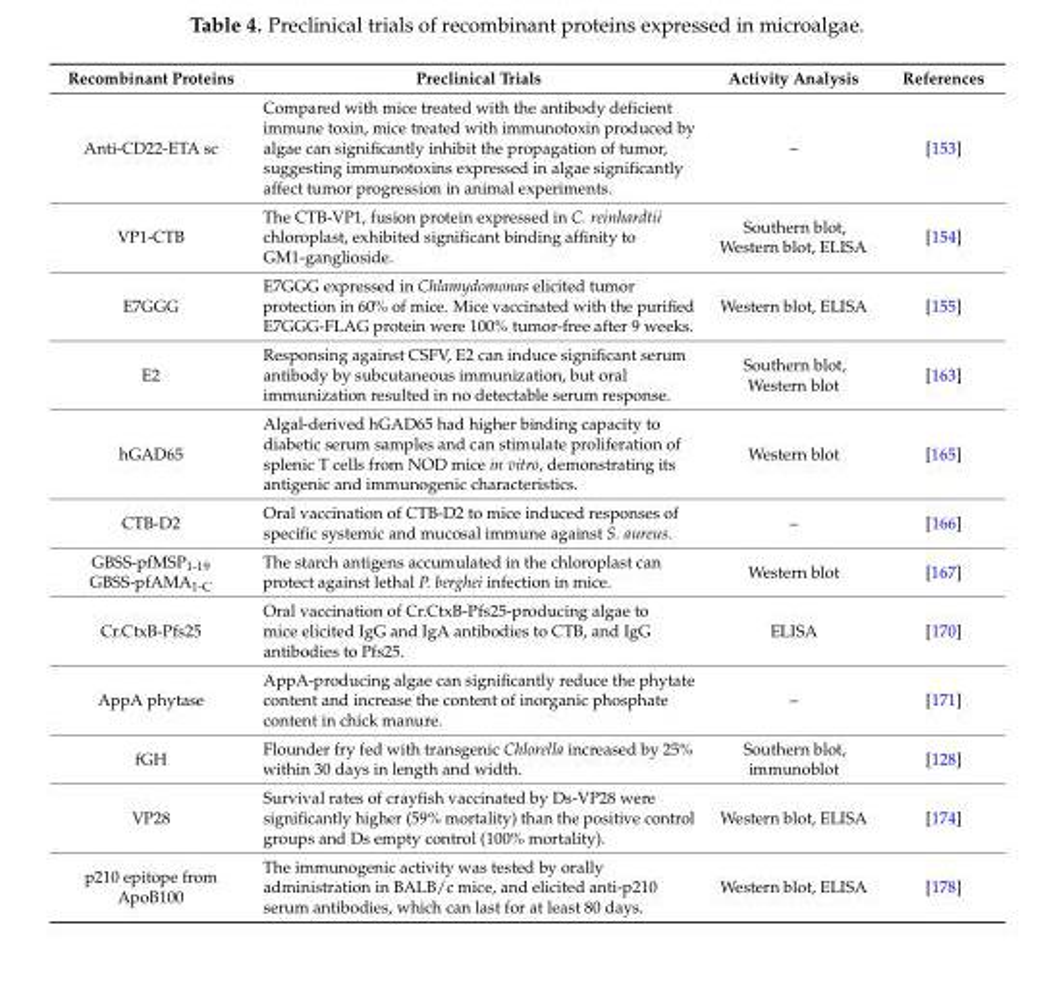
<table><thead><tr><td>Recombinant Proteins</td><td>Preclinical Trials</td><td>Activity Analysis</td><td>References</td></tr></thead><tbody><tr><td>Anti-CD22-ETA sc</td><td>Compared with mice treated with the antibody deficient immune toxin, mice treated with immunotoxin produced by algae can significantly inhibit the propagation of tumor, suggesting immunotoxins expressed in algae significantly affect tumor progression in animal experiments.</td><td>–</td><td>[153]</td></tr><tr><td>VP1-CTB</td><td>The CTB-VP1, fusion protein expressed in C. reinhardtii chloroplast, exhibited significant binding affinity to GM1-ganglioside.</td><td>Southern blot, Western blot, ELISA</td><td>[154]</td></tr><tr><td>E7GGG</td><td>E7GGG expressed in Chlamydomonas elicited tumor protection in 60% of mice. Mice vaccinated with the purified E7GGG-FLAG protein were 100% tumor-free after 9 weeks.</td><td>Western blot, ELISA</td><td>[155]</td></tr><tr><td>E2</td><td>Responsing against CSFV, E2 can induce significant serum antibody by subcutaneous immunization, but oral immunization resulted in no detectable serum response.</td><td>Southern blot, Western blot</td><td>[163]</td></tr><tr><td>hGAD65</td><td>Algal-derived hGAD65 had higher binding capacity to diabetic serum samples and can stimulate proliferation of splenic T cells from NOD mice in vitro, demonstrating its antigenic and immunogenic characteristics.</td><td>Western blot</td><td>[165]</td></tr><tr><td>CTB-D2</td><td>Oral vaccination of CTB-D2 to mice induced responses of specific systemic and mucosal immune against S. aureus.</td><td>–</td><td>[166]</td></tr><tr><td>GBSS-pfMSP<sub>1-19</sub> GBSS-pfAMA<sub>1-C</sub></td><td>The starch antigens accumulated in the chloroplast can protect against lethal P. berghei infection in mice.</td><td>Western blot</td><td>[167]</td></tr><tr><td>Cr.CtxB-Pfs25</td><td>Oral vaccination of Cr.CtxB-Pfs25-producing algae to mice elicited IgG and IgA antibodies to CTB, and IgG antibodies to Pfs25.</td><td>ELISA</td><td>[170]</td></tr><tr><td>AppA phytase</td><td>AppA-producing algae can significantly reduce the phytate content and increase the content of inorganic phosphate content in chick manure.</td><td>–</td><td>[171]</td></tr><tr><td>fGH</td><td>Flounder fry fed with transgenic Chlorella increased by 25% within 30 days in length and width.</td><td>Southern blot, immunoblot</td><td>[128]</td></tr><tr><td>VP28</td><td>Survival rates of crayfish vaccinated by Ds-VP28 were significantly higher (59% mortality) than the positive control groups and Ds empty control (100% mortality).</td><td>Western blot, ELISA</td><td>[174]</td></tr><tr><td>p210 epitope from ApoB100</td><td>The immunogenic activity was tested by orally administration in BALB/c mice, and elicited anti-p210 serum antibodies, which can last for at least 80 days.</td><td>Western blot, ELISA</td><td>[178]</td></tr></tbody></table>